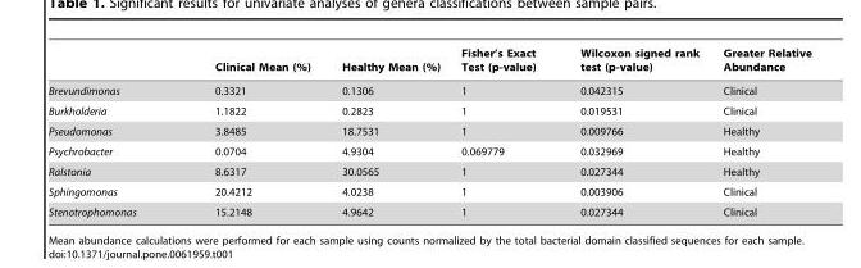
<table><thead><tr><td></td><td>Clinical Mean (%)</td><td>Healthy Mean (%)</td><td>Fisher’s Exact Test (p-value)</td><td>Wilcoxon signed rank test (p-value)</td><td>Greater Relative Abundance</td></tr></thead><tbody><tr><td>Brevundimonas</td><td>0.3321</td><td>0.1306</td><td>1</td><td>0.042315</td><td>Clinical</td></tr><tr><td>Burkholderia</td><td>1.1822</td><td>0.2823</td><td>1</td><td>0.019531</td><td>Clinical</td></tr><tr><td>Pseudomonas</td><td>3.8485</td><td>18.7531</td><td>1</td><td>0.009766</td><td>Healthy</td></tr><tr><td>Psychrobacter</td><td>0.0704</td><td>4.9304</td><td>0.069779</td><td>0.032969</td><td>Healthy</td></tr><tr><td>Ralstonia</td><td>8.6317</td><td>30.0565</td><td>1</td><td>0.027344</td><td>Healthy</td></tr><tr><td>Sphingomonas</td><td>20.4212</td><td>4.0238</td><td>1</td><td>0.003906</td><td>Clinical</td></tr><tr><td>Stenotrophomonas</td><td>15.2148</td><td>4.9642</td><td>1</td><td>0.027344</td><td>Clinical</td></tr></tbody></table>